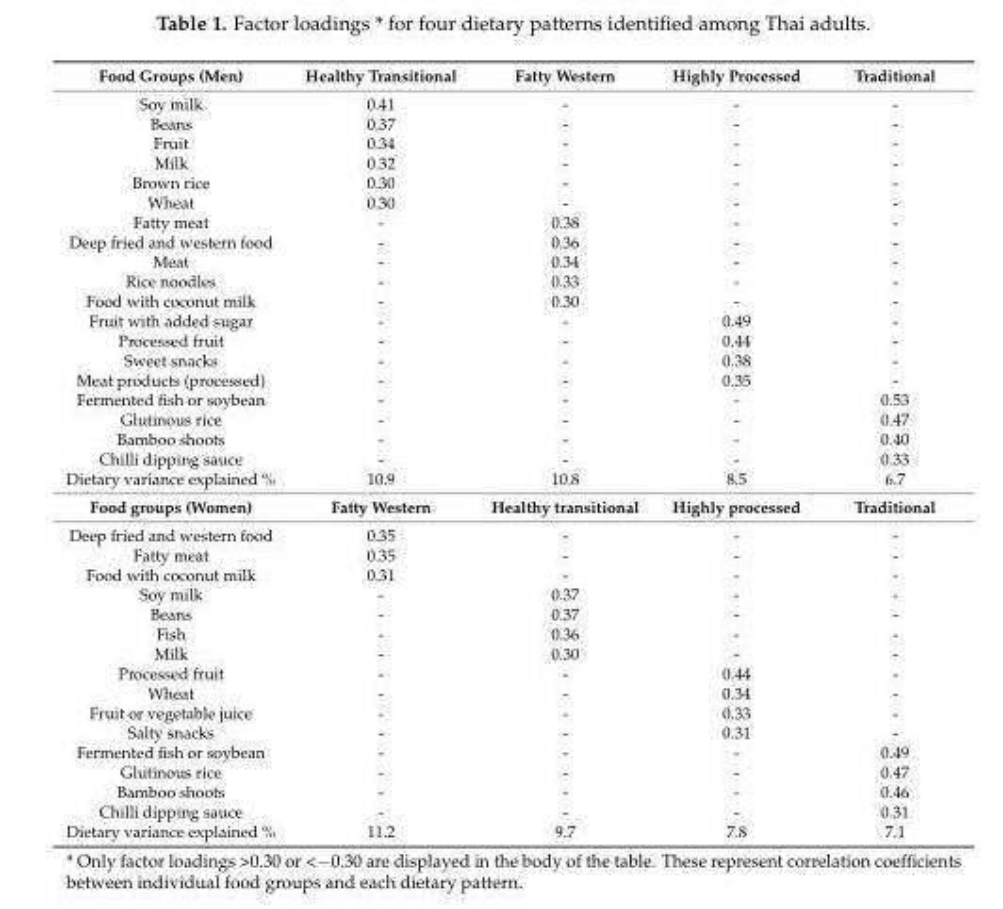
<table><tbody><tr><td>Food Groups (Men)</td><td>Healthy Transitional</td><td>Fatty Western</td><td>Highly Processed</td><td>Traditional</td></tr><tr><td>Soy milk</td><td>0.41</td><td>-</td><td>-</td><td>-</td></tr><tr><td>Beans</td><td>0.37</td><td>-</td><td>-</td><td>-</td></tr><tr><td>Fruit</td><td>0.34</td><td>-</td><td>-</td><td>-</td></tr><tr><td>Milk</td><td>0.32</td><td>-</td><td>-</td><td>-</td></tr><tr><td>Brown rice</td><td>0.30</td><td>-</td><td>-</td><td>-</td></tr><tr><td>Wheat</td><td>0.30</td><td>-</td><td>-</td><td>-</td></tr><tr><td>Fatty meat</td><td>-</td><td>0.38</td><td>-</td><td>-</td></tr><tr><td>Deep fried and western food</td><td>-</td><td>0.36</td><td>-</td><td>-</td></tr><tr><td>Meat</td><td>-</td><td>0.34</td><td>-</td><td>-</td></tr><tr><td>Rice noodles</td><td>-</td><td>0.33</td><td>-</td><td>-</td></tr><tr><td>Food with coconut milk</td><td>-</td><td>0.30</td><td>-</td><td>-</td></tr><tr><td>Fruit with added sugar</td><td>-</td><td>-</td><td>0.49</td><td>-</td></tr><tr><td>Processed fruit</td><td>-</td><td>-</td><td>0.44</td><td>-</td></tr><tr><td>Sweet snacks</td><td>-</td><td>-</td><td>0.38</td><td>-</td></tr><tr><td>Meat products (processed)</td><td>-</td><td>-</td><td>0.35</td><td>-</td></tr><tr><td>Fermented fish or soybean</td><td>-</td><td>-</td><td>-</td><td>0.53</td></tr><tr><td>Glutinous rice</td><td>-</td><td>-</td><td>-</td><td>0.47</td></tr><tr><td>Bamboo shoots</td><td>-</td><td>-</td><td>-</td><td>0.40</td></tr><tr><td>Chilli dipping sauce</td><td>-</td><td>-</td><td>-</td><td>0.33</td></tr><tr><td>Dietary variance explained %</td><td>10.9</td><td>10.8</td><td>8.5</td><td>6.7</td></tr><tr><td>Food groups (Women)</td><td>Fatty Western</td><td>Healthy transitional</td><td>Highly processed</td><td>Traditional</td></tr><tr><td>Deep fried and western food</td><td>0.35</td><td>-</td><td>-</td><td>-</td></tr><tr><td>Fatty meat</td><td>0.35</td><td>-</td><td>-</td><td>-</td></tr><tr><td>Food with coconut milk</td><td>0.31</td><td>-</td><td>-</td><td>-</td></tr><tr><td>Soy milk</td><td>-</td><td>0.37</td><td>-</td><td>-</td></tr><tr><td>Beans</td><td>-</td><td>0.37</td><td>-</td><td>-</td></tr><tr><td>Fish</td><td>-</td><td>0.36</td><td>-</td><td>-</td></tr><tr><td>Milk</td><td>-</td><td>0.30</td><td>-</td><td>-</td></tr><tr><td>Processed fruit</td><td>-</td><td>-</td><td>0.44</td><td>-</td></tr><tr><td>Wheat</td><td>-</td><td>-</td><td>0.34</td><td>-</td></tr><tr><td>Fruit or vegetable juice</td><td>-</td><td>-</td><td>0.33</td><td>-</td></tr><tr><td>Salty snacks</td><td>-</td><td>-</td><td>0.31</td><td>-</td></tr><tr><td>Fermented fish or soybean</td><td>-</td><td>-</td><td>-</td><td>0.49</td></tr><tr><td>Glutinous rice</td><td>-</td><td>-</td><td>-</td><td>0.47</td></tr><tr><td>Bamboo shoots</td><td>-</td><td>-</td><td>-</td><td>0.46</td></tr><tr><td>Chilli dipping sauce</td><td>-</td><td>-</td><td>-</td><td>0.31</td></tr><tr><td>Dietary variance explained %</td><td>11.2</td><td>9.7</td><td>7.8</td><td>7.1</td></tr></tbody></table>